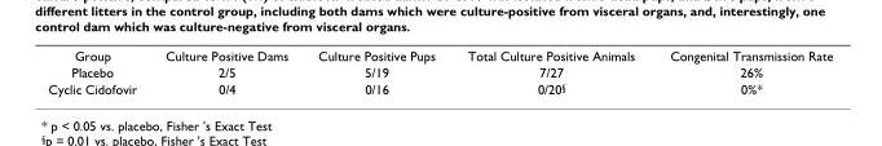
<table><tbody><tr><td>Group</td><td>Culture Positive Dams</td><td>Culture Positive Pups</td><td>Total Culture Positive Animals</td><td>Congenital Transmission Rate</td></tr><tr><td>Placebo</td><td>2/5</td><td>5/19</td><td>7/27</td><td>26%</td></tr><tr><td>Cyclic Cidofovir</td><td>0/4</td><td>0/16</td><td>0/20<sup>§</sup></td><td>0%*</td></tr></tbody></table>